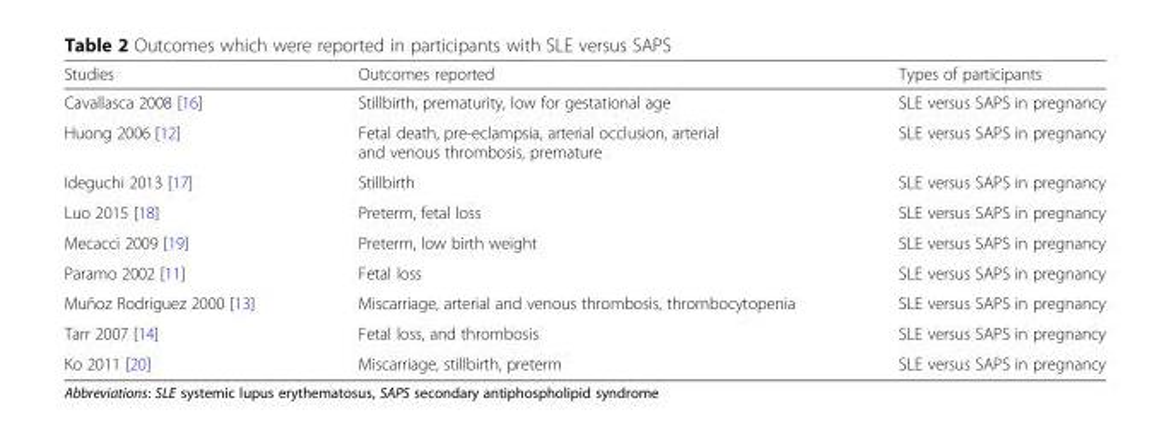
<table><thead><tr><td>Studies</td><td>Outcomes reported</td><td>Types of participants</td></tr></thead><tbody><tr><td>Cavallasca 2008 [16]</td><td>Stillbirth, prematurity, low for gestational age</td><td>SLE versus SAPS in pregnancy</td></tr><tr><td>Huong 2006 [12]</td><td>Fetal death, pre-eclampsia, arterial occlusion, arterial and venous thrombosis, premature</td><td>SLE versus SAPS in pregnancy</td></tr><tr><td>Ideguchi 2013 [17]</td><td>Stillbirth</td><td>SLE versus SAPS in pregnancy</td></tr><tr><td>Luo 2015 [18]</td><td>Preterm, fetal loss</td><td>SLE versus SAPS in pregnancy</td></tr><tr><td>Mecacci 2009 [19]</td><td>Preterm, low birth weight</td><td>SLE versus SAPS in pregnancy</td></tr><tr><td>Paramo 2002 [11]</td><td>Fetal loss</td><td>SLE versus SAPS in pregnancy</td></tr><tr><td>Muñoz Rodriguez 2000 [13]</td><td>Miscarriage, arterial and venous thrombosis, thrombocytopenia</td><td>SLE versus SAPS in pregnancy</td></tr><tr><td>Tarr 2007 [14]</td><td>Fetal loss, and thrombosis</td><td>SLE versus SAPS in pregnancy</td></tr><tr><td>Ko 2011 [20]</td><td>Miscarriage, stillbirth, preterm</td><td>SLE versus SAPS in pregnancy</td></tr></tbody></table>